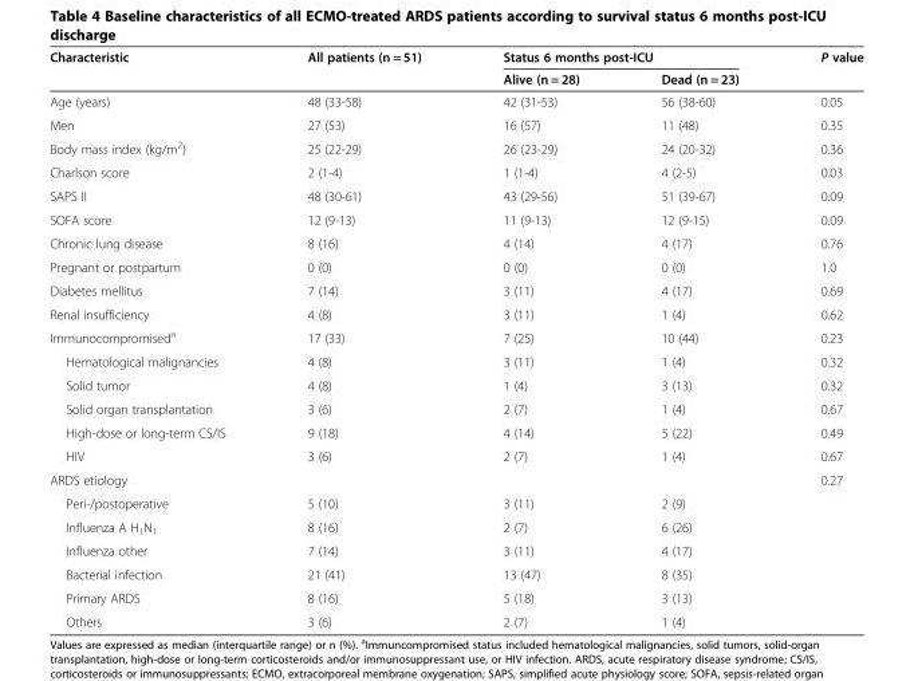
<table><thead><tr><td rowspan="2">Characteristic</td><td rowspan="2">All patients (n = 51)</td><td colspan="2">Status 6 months post-ICU</td><td rowspan="2">P value</td></tr><tr><td>Alive (n = 28)</td><td>Dead (n = 23)</td></tr></thead><tbody><tr><td>Age (years)</td><td>48 (33-58)</td><td>42 (31-53)</td><td>56 (38-60)</td><td>0.05</td></tr><tr><td>Men</td><td>27 (53)</td><td>16 (57)</td><td>11 (48)</td><td>0.35</td></tr><tr><td>Body mass index (kg/m<sup>2</sup>)</td><td>25 (22-29)</td><td>26 (23-29)</td><td>24 (20-32)</td><td>0.36</td></tr><tr><td>Charlson score</td><td>2 (1-4)</td><td>1 (1-4)</td><td>4 (2-5)</td><td>0.03</td></tr><tr><td>SAPS II</td><td>48 (30-61)</td><td>43 (29-56)</td><td>51 (39-67)</td><td>0.09</td></tr><tr><td>SOFA score</td><td>12 (9-13)</td><td>11 (9-13)</td><td>12 (9-15)</td><td>0.09</td></tr><tr><td>Chronic lung disease</td><td>8 (16)</td><td>4 (14)</td><td>4 (17)</td><td>0.76</td></tr><tr><td>Pregnant or postpartum</td><td>0 (0)</td><td>0 (0)</td><td>0 (0)</td><td>1.0</td></tr><tr><td>Diabetes mellitus</td><td>7 (14)</td><td>3 (11)</td><td>4 (17)</td><td>0.69</td></tr><tr><td>Renal insufficiency</td><td>4 (8)</td><td>3 (11)</td><td>1 (4)</td><td>0.62</td></tr><tr><td>Immunocompromised<sup>a</sup></td><td>17 (33)</td><td>7 (25)</td><td>10 (44)</td><td>0.23</td></tr><tr><td>Hematological malignancies</td><td>4 (8)</td><td>3 (11)</td><td>1 (4)</td><td>0.32</td></tr><tr><td>Solid tumor</td><td>4 (8)</td><td>1 (4)</td><td>3 (13)</td><td>0.32</td></tr><tr><td>Solid organ transplantation</td><td>3 (6)</td><td>2 (7)</td><td>1 (4)</td><td>0.67</td></tr><tr><td>High-dose or long-term CS/IS</td><td>9 (18)</td><td>4 (14)</td><td>5 (22)</td><td>0.49</td></tr><tr><td>HIV</td><td>3 (6)</td><td>2 (7)</td><td>1 (4)</td><td>0.67</td></tr><tr><td>ARDS etiology</td><td></td><td></td><td></td><td>0.27</td></tr><tr><td>Peri-/postoperative</td><td>5 (10)</td><td>3 (11)</td><td>2 (9)</td><td></td></tr><tr><td>Influenza A H<sub>1</sub>N<sub>1</sub></td><td>8 (16)</td><td>2 (7)</td><td>6 (26)</td><td></td></tr><tr><td>Influenza other</td><td>7 (14)</td><td>3 (11)</td><td>4 (17)</td><td></td></tr><tr><td>Bacterial infection</td><td>21 (41)</td><td>13 (47)</td><td>8 (35)</td><td></td></tr><tr><td>Primary ARDS</td><td>8 (16)</td><td>5 (18)</td><td>3 (13)</td><td></td></tr><tr><td>Others</td><td>3 (6)</td><td>2 (7)</td><td>1 (4)</td><td></td></tr></tbody></table>